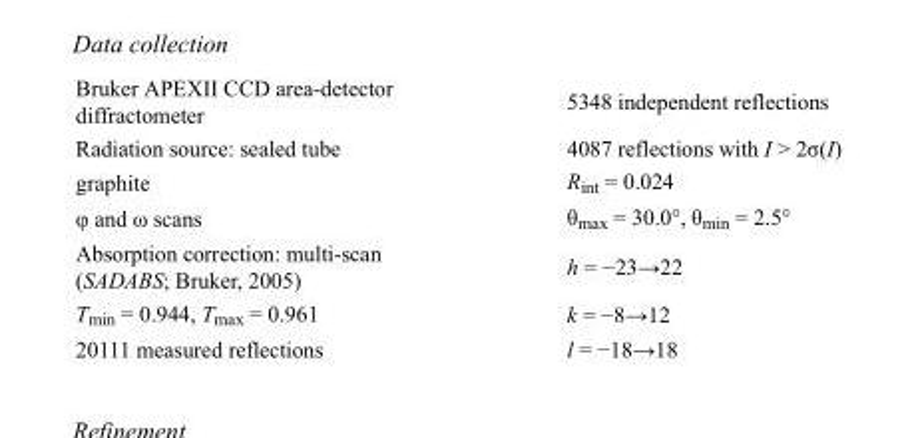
<table><tbody><tr><td>Bruker APEXII CCD area-detector diffractometer</td><td>5348 independent reflections</td></tr><tr><td>Radiation source: sealed tube</td><td>4087 reflections with I &gt; 2σ(I)</td></tr><tr><td>graphite</td><td>R<sub>int</sub> = 0.024</td></tr><tr><td>φ and ω scans</td><td>θ<sub>max</sub> = 30.0°, θ<sub>min</sub> = 2.5°</td></tr><tr><td>Absorption correction: multi-scan (SADABS; Bruker, 2005)</td><td>h = −23→22</td></tr><tr><td>T<sub>min</sub> = 0.944, T<sub>max</sub> = 0.961</td><td>k = −8→12</td></tr><tr><td>20111 measured reflections</td><td>l = −18→18</td></tr></tbody></table>